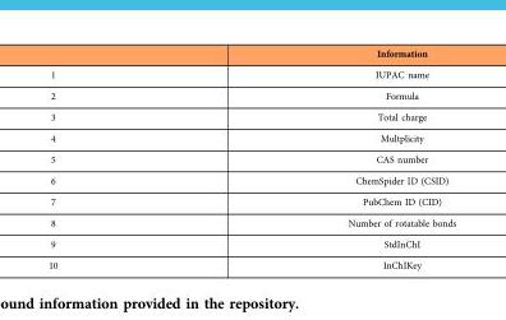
<table><thead><tr><td></td><td>Information</td></tr></thead><tbody><tr><td>1</td><td>IUPAC name</td></tr><tr><td>2</td><td>Formula</td></tr><tr><td>3</td><td>Total charge</td></tr><tr><td>4</td><td>Multplicity</td></tr><tr><td>5</td><td>CAS number</td></tr><tr><td>6</td><td>ChemSpider ID (CSID)</td></tr><tr><td>7</td><td>PubChem ID (CID)</td></tr><tr><td>8</td><td>Number of rotatable bonds</td></tr><tr><td>9</td><td>StdInChI</td></tr><tr><td>10</td><td>InChIKey</td></tr></tbody></table>